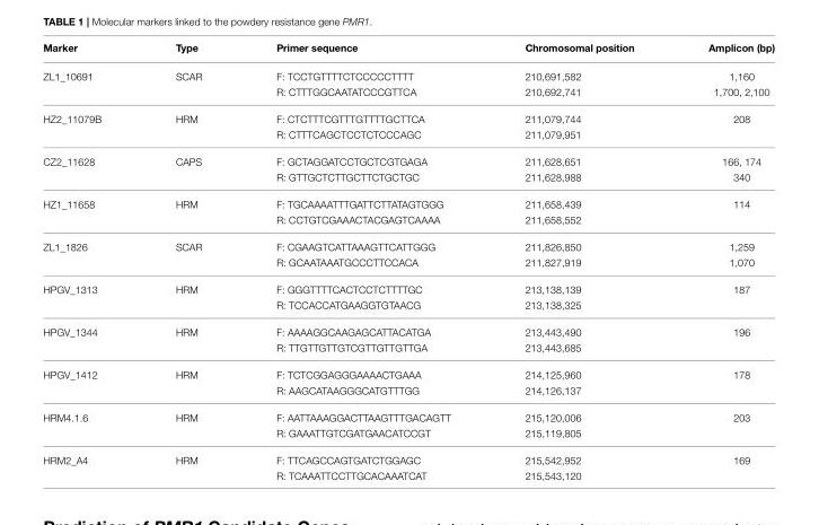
<table><thead><tr><td>Marker</td><td>Type</td><td>Primer sequence</td><td>Chromosomal position</td><td>Amplicon (bp)</td></tr></thead><tbody><tr><td rowspan="2">ZL1_10691</td><td>SCAR</td><td>F: TCCTGTTTTCTCCCCCTTTT</td><td>210,691,582</td><td>1,160</td></tr><tr><td></td><td>R: CTTTGGCAATATCCCGTTCA</td><td>210,692,741</td><td>1,700, 2,100</td></tr><tr><td rowspan="2">HZ2_11079B</td><td>HRM</td><td>F: CTCTTTCGTTTGTTTTGCTTCA</td><td>211,079,744</td><td>208</td></tr><tr><td></td><td>R: CTTTCAGCTCCTCTCCCAGC</td><td>211,079,951</td><td></td></tr><tr><td rowspan="2">CZ2_11628</td><td>CAPS</td><td>F: GCTAGGATCCTGCTCGTGAGA</td><td>211,628,651</td><td>166, 174</td></tr><tr><td></td><td>R: GTTGCTCTTGCTTCTGCTGC</td><td>211,628,988</td><td>340</td></tr><tr><td rowspan="2">HZ1_11658</td><td>HRM</td><td>F: TGCAAAATTTGATTCTTATAGTGGG</td><td>211,658,439</td><td>114</td></tr><tr><td></td><td>R: CCTGTCGAAACTACGAGTCAAAA</td><td>211,658,552</td><td></td></tr><tr><td rowspan="2">ZL1_1826</td><td>SCAR</td><td>F: CGAAGTCATTAAAGTTCATTGGG</td><td>211,826,850</td><td>1,259</td></tr><tr><td></td><td>R: GCAATAAATGCCCTTCCACA</td><td>211,827,919</td><td>1,070</td></tr><tr><td rowspan="2">HPGV_1313</td><td>HRM</td><td>F: GGGTTTTCACTCCTCTTTTGC</td><td>213,138,139</td><td>187</td></tr><tr><td></td><td>R: TCCACCATGAAGGTGTAACG</td><td>213,138,325</td><td></td></tr><tr><td rowspan="2">HPGV_1344</td><td>HRM</td><td>F: AAAAGGCAAGAGCATTACATGA</td><td>213,443,490</td><td>196</td></tr><tr><td></td><td>R: TTGTTGTTGTCGTTGTTGTTGA</td><td>213,443,685</td><td></td></tr><tr><td rowspan="2">HPGV_1412</td><td>HRM</td><td>F: TCTCGGAGGGAAAACTGAAA</td><td>214,125,960</td><td>178</td></tr><tr><td></td><td>R: AAGCATAAGGGCATGTTTGG</td><td>214,126,137</td><td></td></tr><tr><td rowspan="2">HRM4.1.6</td><td>HRM</td><td>F: AATTAAAGGACTTAAGTTTGACAGTT</td><td>215,120,006</td><td>203</td></tr><tr><td></td><td>R: GAAATTGTCGATGAACATCCGT</td><td>215,119,805</td><td></td></tr><tr><td rowspan="2">HRM2_A4</td><td>HRM</td><td>F: TTCAGCCAGTGATCTGGAGC</td><td>215,542,952</td><td>169</td></tr><tr><td></td><td>R: TCAAATTCCTTGCACAAATCAT</td><td>215,543,120</td><td></td></tr></tbody></table>